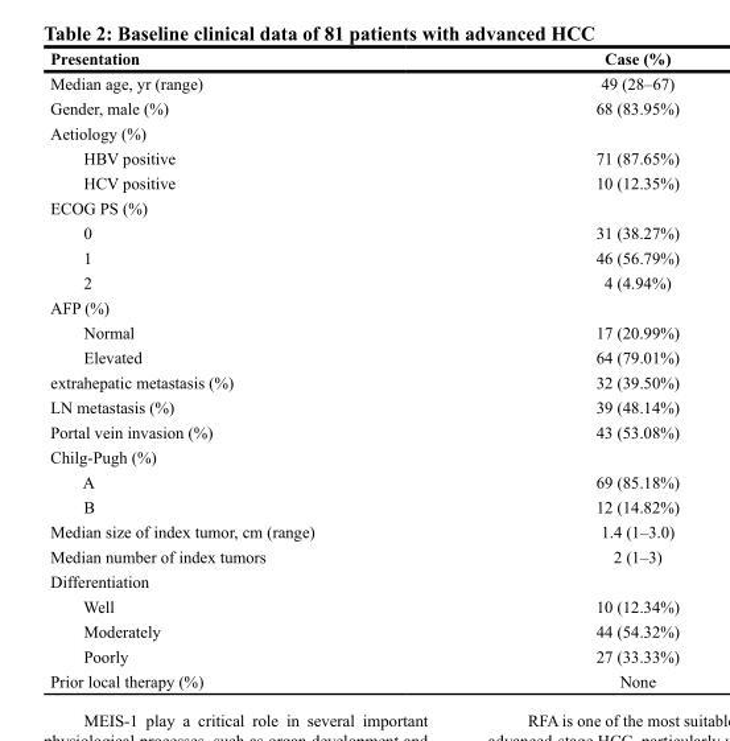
<table><thead><tr><td>Presentation</td><td>Case (%)</td></tr></thead><tbody><tr><td>Median age, yr (range)</td><td>49 (28–67)</td></tr><tr><td>Gender, male (%)</td><td>68 (83.95%)</td></tr><tr><td colspan="2">Aetiology (%)</td></tr><tr><td>HBV positive</td><td>71 (87.65%)</td></tr><tr><td>HCV positive</td><td>10 (12.35%)</td></tr><tr><td colspan="2">ECOG PS (%)</td></tr><tr><td>0</td><td>31 (38.27%)</td></tr><tr><td>1</td><td>46 (56.79%)</td></tr><tr><td>2</td><td>4 (4.94%)</td></tr><tr><td colspan="2">AFP (%)</td></tr><tr><td>Normal</td><td>17 (20.99%)</td></tr><tr><td>Elevated</td><td>64 (79.01%)</td></tr><tr><td>extrahepatic metastasis (%)</td><td>32 (39.50%)</td></tr><tr><td>LN metastasis (%)</td><td>39 (48.14%)</td></tr><tr><td>Portal vein invasion (%)</td><td>43 (53.08%)</td></tr><tr><td colspan="2">Chilg-Pugh (%)</td></tr><tr><td>A</td><td>69 (85.18%)</td></tr><tr><td>B</td><td>12 (14.82%)</td></tr><tr><td>Median size of index tumor, cm (range)</td><td>1.4 (1–3.0)</td></tr><tr><td>Median number of index tumors</td><td>2 (1–3)</td></tr><tr><td colspan="2">Differentiation</td></tr><tr><td>Well</td><td>10 (12.34%)</td></tr><tr><td>Moderately</td><td>44 (54.32%)</td></tr><tr><td>Poorly</td><td>27 (33.33%)</td></tr><tr><td>Prior local therapy (%)</td><td>None</td></tr></tbody></table>